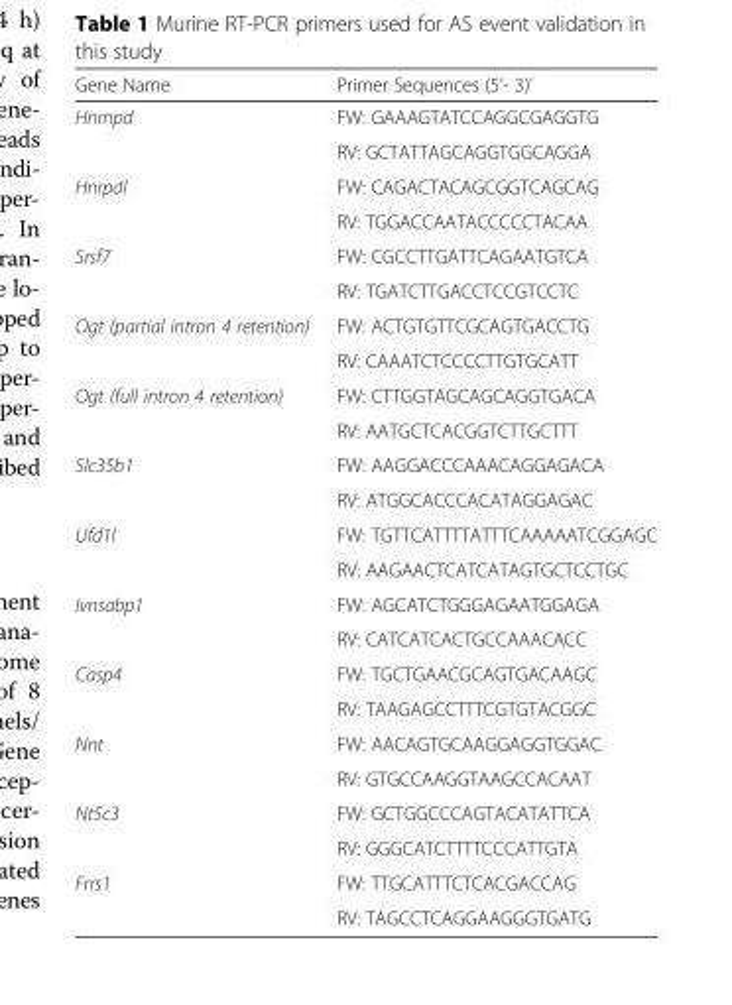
<table><thead><tr><td>Gene Name</td><td>Primer Sequences (5’- 3)’</td></tr></thead><tbody><tr><td rowspan="2">Hnrnpd</td><td>FW: GAAAGTATCCAGGCGAGGTG</td></tr><tr><td>RV: GCTATTAGCAGGTGGCAGGA</td></tr><tr><td rowspan="2">Hnrpdl</td><td>FW: CAGACTACAGCGGTCAGCAG</td></tr><tr><td>RV: TGGACCAATACCCCCTACAA</td></tr><tr><td rowspan="2">Srsf7</td><td>FW: CGCCTTGATTCAGAATGTCA</td></tr><tr><td>RV: TGATCTTGACCTCCGTCCTC</td></tr><tr><td rowspan="2">Ogt (partial intron 4 retention)</td><td>FW: ACTGTGTTCGCAGTGACCTG</td></tr><tr><td>RV: CAAATCTCCCCTTGTGCATT</td></tr><tr><td rowspan="2">Ogt (full intron 4 retention)</td><td>FW: CTTGGTAGCAGCAGGTGACA</td></tr><tr><td>RV: AATGCTCACGGTCTTGCTTT</td></tr><tr><td rowspan="2">Slc35b1</td><td>FW: AAGGACCCAAACAGGAGACA</td></tr><tr><td>RV: ATGGCACCCACATAGGAGAC</td></tr><tr><td rowspan="2">Ufd1l</td><td>FW: TGTTCATTTTATTTCAAAAATCGGAGC</td></tr><tr><td>RV: AAGAACTCATCATAGTGCTCCTGC</td></tr><tr><td rowspan="2">Ivnsabp1</td><td>FW: AGCATCTGGGAGAATGGAGA</td></tr><tr><td>RV: CATCATCACTGCCAAACACC</td></tr><tr><td rowspan="2">Casp4</td><td>FW: TGCTGAACGCAGTGACAAGC</td></tr><tr><td>RV: TAAGAGCCTTTCGTGTACGGC</td></tr><tr><td rowspan="2">Nnt</td><td>FW: AACAGTGCAAGGAGGTGGAC</td></tr><tr><td>RV: GTGCCAAGGTAAGCCACAAT</td></tr><tr><td rowspan="2">Nt5c3</td><td>FW: GCTGGCCCAGTACATATTCA</td></tr><tr><td>RV: GGGCATCTTTTCCCATTGTA</td></tr><tr><td rowspan="2">Frrs1</td><td>FW: TTGCATTTCTCACGACCAG</td></tr><tr><td>RV: TAGCCTCAGGAAGGGTGATG</td></tr></tbody></table>